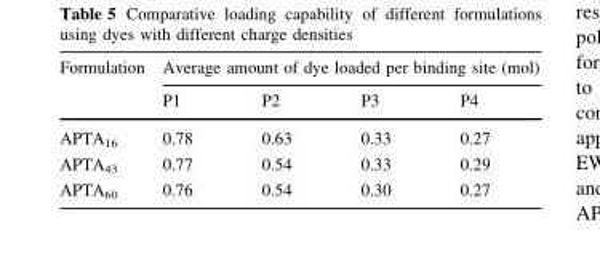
<table><thead><tr><td rowspan="2">Formulation</td><td colspan="4">Average amount of dye loaded per binding site (mol)</td></tr><tr><td>P1</td><td>P2</td><td>P3</td><td>P4</td></tr></thead><tbody><tr><td>APTA<sub>16</sub></td><td>0.78</td><td>0.63</td><td>0.33</td><td>0.27</td></tr><tr><td>APTA<sub>43</sub></td><td>0.77</td><td>0.54</td><td>0.33</td><td>0.29</td></tr><tr><td>APTA<sub>60</sub></td><td>0.76</td><td>0.54</td><td>0.30</td><td>0.27</td></tr></tbody></table>